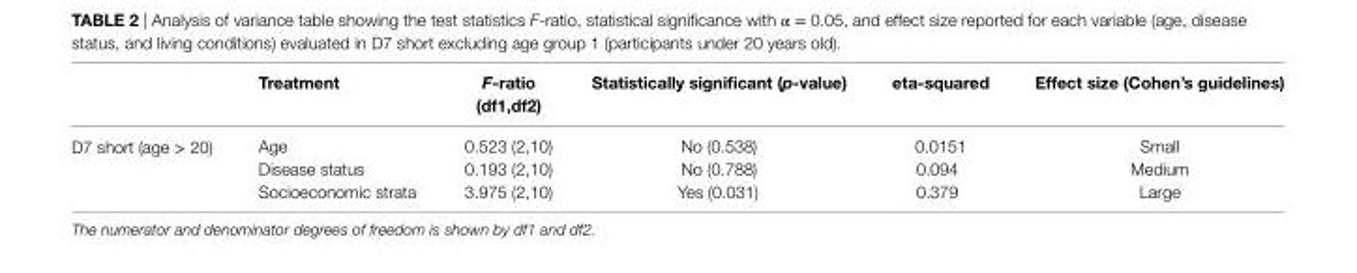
<table><thead><tr><td></td><td>Treatment</td><td>F-ratio (df1,df2)</td><td>statistically significant (p-value)</td><td>eta-squared</td><td>effect size (cohen’s guidelines)</td></tr></thead><tbody><tr><td rowspan="3">D7 short (age &gt; 20)</td><td>Age</td><td>0.523 (2,10)</td><td>No (0.538)</td><td>0.0151</td><td>Small</td></tr><tr><td>Disease status</td><td>0.193 (2,10)</td><td>No (0.788)</td><td>0.094</td><td>Medium</td></tr><tr><td>Socioeconomic strata</td><td>3.975 (2,10)</td><td>Yes (0.031)</td><td>0.379</td><td>Large</td></tr></tbody></table>